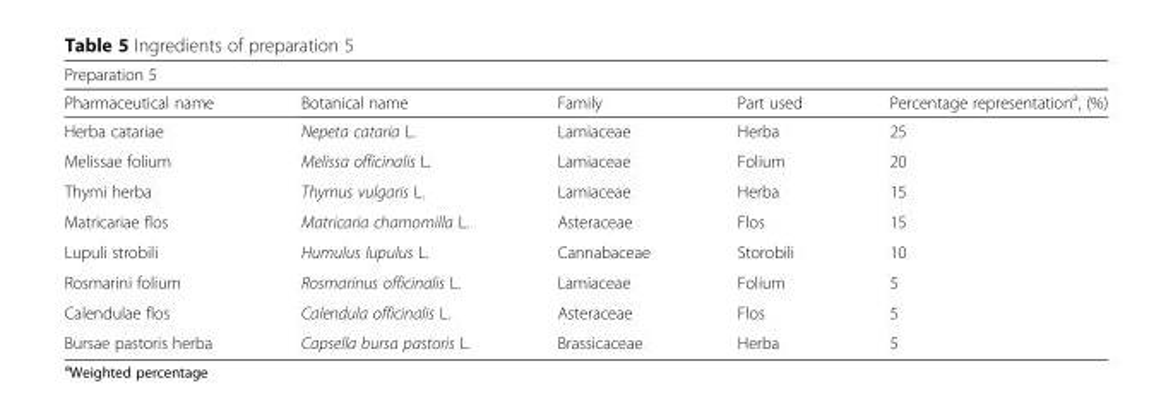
<table><thead><tr><td colspan="5">Preparation 5</td></tr><tr><td>Pharmaceutical name</td><td>Botanical name</td><td>Family</td><td>Part used</td><td>Percentage representation<sup>a</sup>, (%)</td></tr></thead><tbody><tr><td>Herba catariae</td><td>Nepeta cataria L.</td><td>Lamiaceae</td><td>Herba</td><td>25</td></tr><tr><td>Melissae folium</td><td>Melissa officinalis L.</td><td>Lamiaceae</td><td>Folium</td><td>20</td></tr><tr><td>Thymi herba</td><td>Thymus vulgaris L.</td><td>Lamiaceae</td><td>Herba</td><td>15</td></tr><tr><td>Matricariae flos</td><td>Matricaria chamomilla L.</td><td>Asteraceae</td><td>Flos</td><td>15</td></tr><tr><td>Lupuli strobili</td><td>Humulus lupulus L.</td><td>Cannabaceae</td><td>Storobili</td><td>10</td></tr><tr><td>Rosmarini folium</td><td>Rosmarinus officinalis L.</td><td>Lamiaceae</td><td>Folium</td><td>5</td></tr><tr><td>Calendulae flos</td><td>Calendula officinalis L.</td><td>Asteraceae</td><td>Flos</td><td>5</td></tr><tr><td>Bursae pastoris herba</td><td>Capsella bursa pastoris L.</td><td>Brassicaceae</td><td>Herba</td><td>5</td></tr></tbody></table>